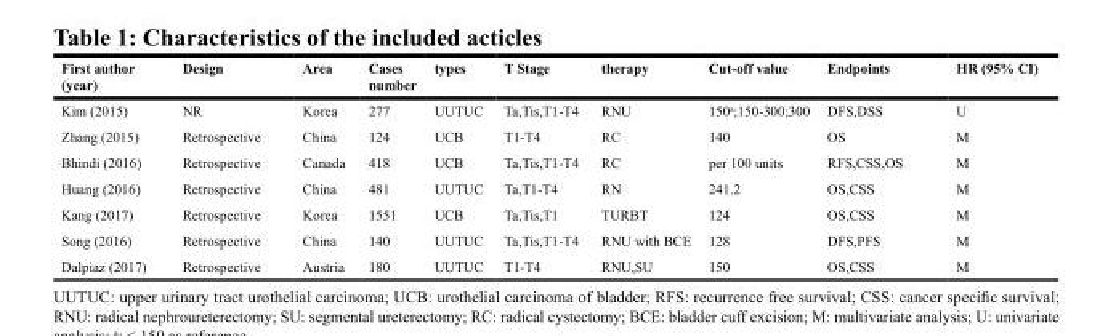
<table><thead><tr><td>First author (year)</td><td>Design</td><td>Area</td><td>Cases number</td><td>types</td><td>T Stage</td><td>therapy</td><td>Cut-off value</td><td>Endpoints</td><td>HR (95% CI)</td></tr></thead><tbody><tr><td>Kim (2015)</td><td>NR</td><td>Korea</td><td>277</td><td>UUTUC</td><td>Ta,Tis,T1-T4</td><td>RNU</td><td>150<sup>a</sup>;150-300;300</td><td>DFS,DSS</td><td>U</td></tr><tr><td>Zhang (2015)</td><td>Retrospective</td><td>China</td><td>124</td><td>UCB</td><td>T1-T4</td><td>RC</td><td>140</td><td>OS</td><td>M</td></tr><tr><td>Bhindi (2016)</td><td>Retrospective</td><td>Canada</td><td>418</td><td>UCB</td><td>Ta,Tis,T1-T4</td><td>RC</td><td>per 100 units</td><td>RFS,CSS,OS</td><td>M</td></tr><tr><td>Huang (2016)</td><td>Retrospective</td><td>China</td><td>481</td><td>UUTUC</td><td>Ta,T1-T4</td><td>RN</td><td>241.2</td><td>OS,CSS</td><td>M</td></tr><tr><td>Kang (2017)</td><td>Retrospective</td><td>Korea</td><td>1551</td><td>UCB</td><td>Ta,Tis,T1</td><td>TURBT</td><td>124</td><td>OS,CSS</td><td>M</td></tr><tr><td>Song (2016)</td><td>Retrospective</td><td>China</td><td>140</td><td>UUTUC</td><td>Ta,Tis,T1-T4</td><td>RNU with BCE</td><td>128</td><td>DFS,PFS</td><td>M</td></tr><tr><td>Dalpiaz (2017)</td><td>Retrospective</td><td>Austria</td><td>180</td><td>UUTUC</td><td>T1-T4</td><td>RNU,SU</td><td>150</td><td>OS,CSS</td><td>M</td></tr></tbody></table>